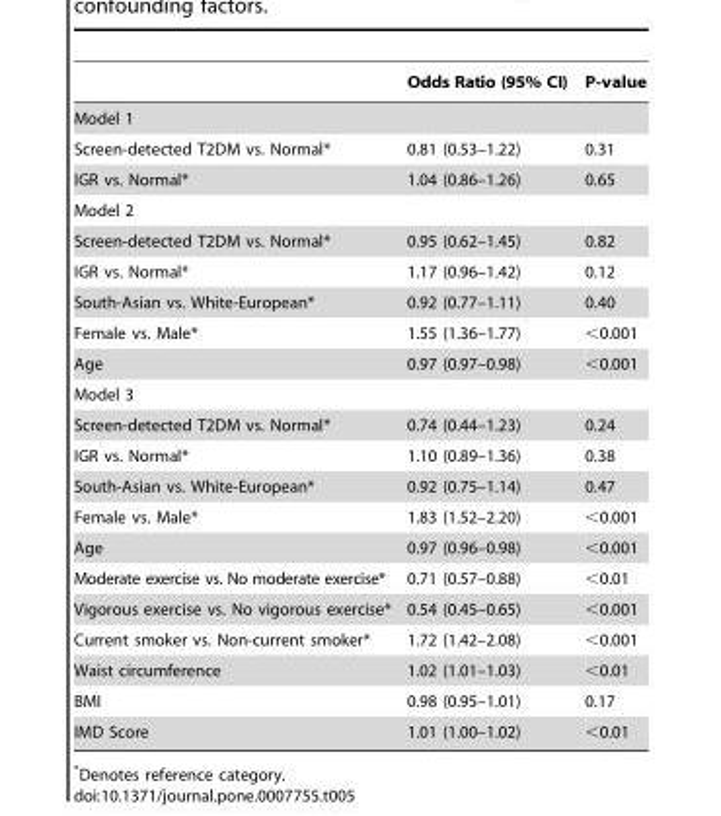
<table><thead><tr><td></td><td>Odds Ratio (95% CI)</td><td>P-value</td></tr></thead><tbody><tr><td colspan="3">Model 1</td></tr><tr><td>Screen-detected T2DM vs. Normal*</td><td>0.81 (0.53–1.22)</td><td>0.31</td></tr><tr><td>IGR vs. Normal*</td><td>1.04 (0.86–1.26)</td><td>0.65</td></tr><tr><td colspan="3">Model 2</td></tr><tr><td>Screen-detected T2DM vs. Normal*</td><td>0.95 (0.62–1.45)</td><td>0.82</td></tr><tr><td>IGR vs. Normal*</td><td>1.17 (0.96–1.42)</td><td>0.12</td></tr><tr><td>South-Asian vs. White-European*</td><td>0.92 (0.77–1.11)</td><td>0.40</td></tr><tr><td>Female vs. Male*</td><td>1.55 (1.36–1.77)</td><td>&lt;0.001</td></tr><tr><td>Age</td><td>0.97 (0.97–0.98)</td><td>&lt;0.001</td></tr><tr><td colspan="3">Model 3</td></tr><tr><td>Screen-detected T2DM vs. Normal*</td><td>0.74 (0.44–1.23)</td><td>0.24</td></tr><tr><td>IGR vs. Normal*</td><td>1.10 (0.89–1.36)</td><td>0.38</td></tr><tr><td>South-Asian vs. White-European*</td><td>0.92 (0.75–1.14)</td><td>0.47</td></tr><tr><td>Female vs. Male*</td><td>1.83 (1.52–2.20)</td><td>&lt;0.001</td></tr><tr><td>Age</td><td>0.97 (0.96–0.98)</td><td>&lt;0.001</td></tr><tr><td>Moderate exercise vs. No moderate exercise*</td><td>0.71 (0.57–0.88)</td><td>&lt;0.01</td></tr><tr><td>Vigorous exercise vs. No vigorous exercise*</td><td>0.54 (0.45–0.65)</td><td>&lt;0.001</td></tr><tr><td>Current smoker vs. Non-current smoker*</td><td>1.72 (1.42–2.08)</td><td>&lt;0.001</td></tr><tr><td>Waist circumference</td><td>1.02 (1.01–1.03)</td><td>&lt;0.01</td></tr><tr><td>BMI</td><td>0.98 (0.95–1.01)</td><td>0.17</td></tr><tr><td>IMD Score</td><td>1.01 (1.00–1.02)</td><td>&lt;0.01</td></tr></tbody></table>